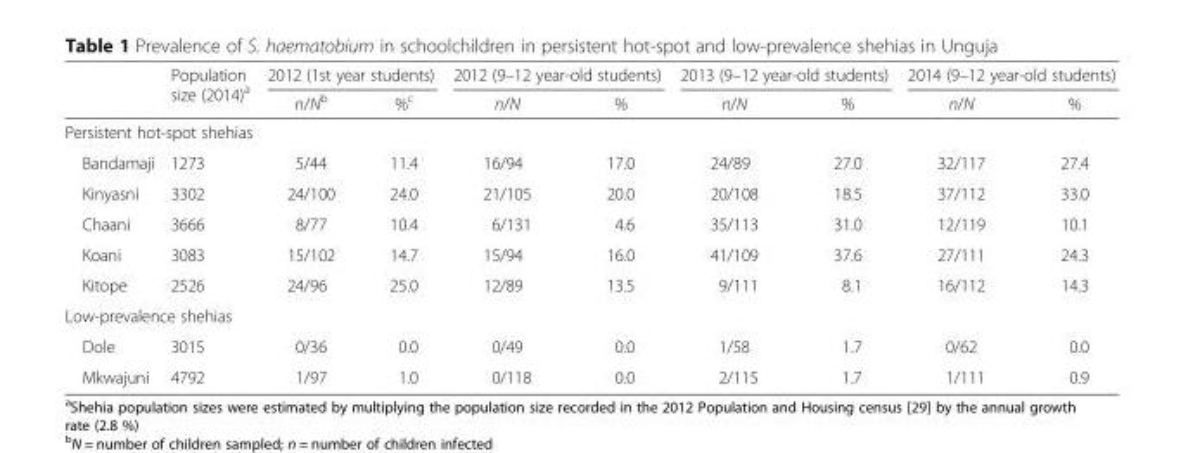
<table><thead><tr><td rowspan="2"></td><td rowspan="2">Population size (2014)<sup>a</sup></td><td colspan="2">2012 (1st year students)</td><td colspan="2">2012 (9–12 year-old students)</td><td colspan="2">2013 (9–12 year-old students)</td><td colspan="2">2014 (9–12 year-old students)</td></tr><tr><td>n/N<sup>b</sup></td><td>%<sup>c</sup></td><td>n/N</td><td>%</td><td>n/N</td><td>%</td><td>n/N</td><td>%</td></tr></thead><tbody><tr><td colspan="10">Persistent hot-spot shehias</td></tr><tr><td>Bandamaji</td><td>1273</td><td>5/44</td><td>11.4</td><td>16/94</td><td>17.0</td><td>24/89</td><td>27.0</td><td>32/117</td><td>27.4</td></tr><tr><td>Kinyasni</td><td>3302</td><td>24/100</td><td>24.0</td><td>21/105</td><td>20.0</td><td>20/108</td><td>18.5</td><td>37/112</td><td>33.0</td></tr><tr><td>Chaani</td><td>3666</td><td>8/77</td><td>10.4</td><td>6/131</td><td>4.6</td><td>35/113</td><td>31.0</td><td>12/119</td><td>10.1</td></tr><tr><td>Koani</td><td>3083</td><td>15/102</td><td>14.7</td><td>15/94</td><td>16.0</td><td>41/109</td><td>37.6</td><td>27/111</td><td>24.3</td></tr><tr><td>Kitope</td><td>2526</td><td>24/96</td><td>25.0</td><td>12/89</td><td>13.5</td><td>9/111</td><td>8.1</td><td>16/112</td><td>14.3</td></tr><tr><td colspan="10">Low-prevalence shehias</td></tr><tr><td>Dole</td><td>3015</td><td>0/36</td><td>0.0</td><td>0/49</td><td>0.0</td><td>1/58</td><td>1.7</td><td>0/62</td><td>0.0</td></tr><tr><td>Mkwajuni</td><td>4792</td><td>1/97</td><td>1.0</td><td>0/118</td><td>0.0</td><td>2/115</td><td>1.7</td><td>1/111</td><td>0.9</td></tr></tbody></table>